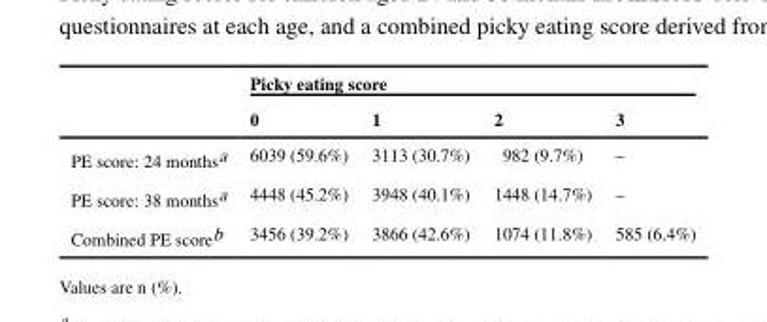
<table><thead><tr><td rowspan="2"></td><td colspan="4">Picky eating score</td></tr><tr><td>0</td><td>1</td><td>2</td><td>3</td></tr></thead><tbody><tr><td>PE score: 24 months<sup>a</sup></td><td>6039 (59.6%)</td><td>3113 (30.7%)</td><td>982 (9.7%)</td><td>–</td></tr><tr><td>PE score: 38 months<sup>a</sup></td><td>4448 (45.2%)</td><td>3948 (40.1%)</td><td>1448 (14.7%)</td><td>–</td></tr><tr><td>Combined PE score<sup>b</sup></td><td>3456 (39.2%)</td><td>3866 (42.6%)</td><td>1074 (11.8%)</td><td>585 (6.4%)</td></tr></tbody></table>